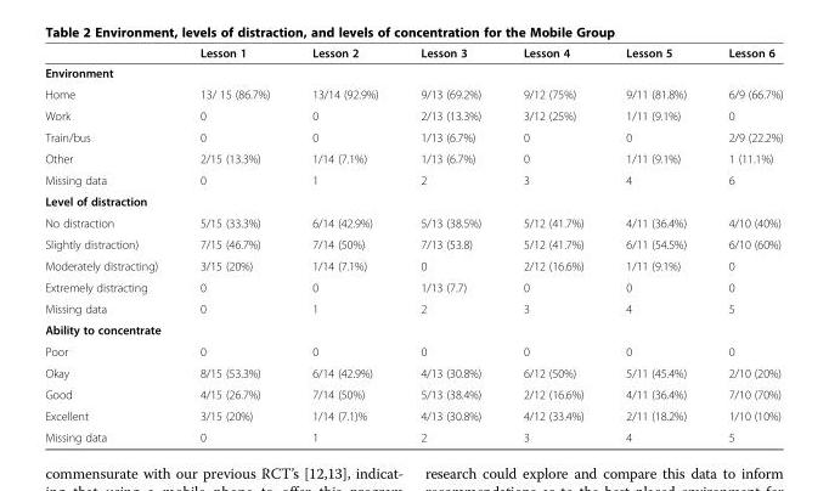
<table><thead><tr><td></td><td>Lesson 1</td><td>Lesson 2</td><td>Lesson 3</td><td>Lesson 4</td><td>Lesson 5</td><td>Lesson 6</td></tr></thead><tbody><tr><td colspan="7">Environment</td></tr><tr><td>Home</td><td>13/ 15 (86.7%)</td><td>13/14 (92.9%)</td><td>9/13 (69.2%)</td><td>9/12 (75%)</td><td>9/11 (81.8%)</td><td>6/9 (66.7%)</td></tr><tr><td>Work</td><td>0</td><td>0</td><td>2/13 (13.3%)</td><td>3/12 (25%)</td><td>1/11 (9.1%)</td><td>0</td></tr><tr><td>Train/bus</td><td>0</td><td>0</td><td>1/13 (6.7%)</td><td>0</td><td>0</td><td>2/9 (22.2%)</td></tr><tr><td>Other</td><td>2/15 (13.3%)</td><td>1/14 (7.1%)</td><td>1/13 (6.7%)</td><td>0</td><td>1/11 (9.1%)</td><td>1 (11.1%)</td></tr><tr><td>Missing data</td><td>0</td><td>1</td><td>2</td><td>3</td><td>4</td><td>6</td></tr><tr><td colspan="7">Level of distraction</td></tr><tr><td>No distraction</td><td>5/15 (33.3%)</td><td>6/14 (42.9%)</td><td>5/13 (38.5%)</td><td>5/12 (41.7%)</td><td>4/11 (36.4%)</td><td>4/10 (40%)</td></tr><tr><td>Slightly distraction)</td><td>7/15 (46.7%)</td><td>7/14 (50%)</td><td>7/13 (53.8)</td><td>5/12 (41.7%)</td><td>6/11 (54.5%)</td><td>6/10 (60%)</td></tr><tr><td>Moderately distracting)</td><td>3/15 (20%)</td><td>1/14 (7.1%)</td><td>0</td><td>2/12 (16.6%)</td><td>1/11 (9.1%)</td><td>0</td></tr><tr><td>Extremely distracting</td><td>0</td><td>0</td><td>1/13 (7.7)</td><td>0</td><td>0</td><td>0</td></tr><tr><td>Missing data</td><td>0</td><td>1</td><td>2</td><td>3</td><td>4</td><td>5</td></tr><tr><td colspan="7">Ability to concentrate</td></tr><tr><td>Poor</td><td>0</td><td>0</td><td>0</td><td>0</td><td>0</td><td>0</td></tr><tr><td>Okay</td><td>8/15 (53.3%)</td><td>6/14 (42.9%)</td><td>4/13 (30.8%)</td><td>6/12 (50%)</td><td>5/11 (45.4%)</td><td>2/10 (20%)</td></tr><tr><td>Good</td><td>4/15 (26.7%)</td><td>7/14 (50%)</td><td>5/13 (38.4%)</td><td>2/12 (16.6%)</td><td>4/11 (36.4%)</td><td>7/10 (70%)</td></tr><tr><td>Excellent</td><td>3/15 (20%)</td><td>1/14 (7.1)%</td><td>4/13 (30.8%)</td><td>4/12 (33.4%)</td><td>2/11 (18.2%)</td><td>1/10 (10%)</td></tr><tr><td>Missing data</td><td>0</td><td>1</td><td>2</td><td>3</td><td>4</td><td>5</td></tr></tbody></table>